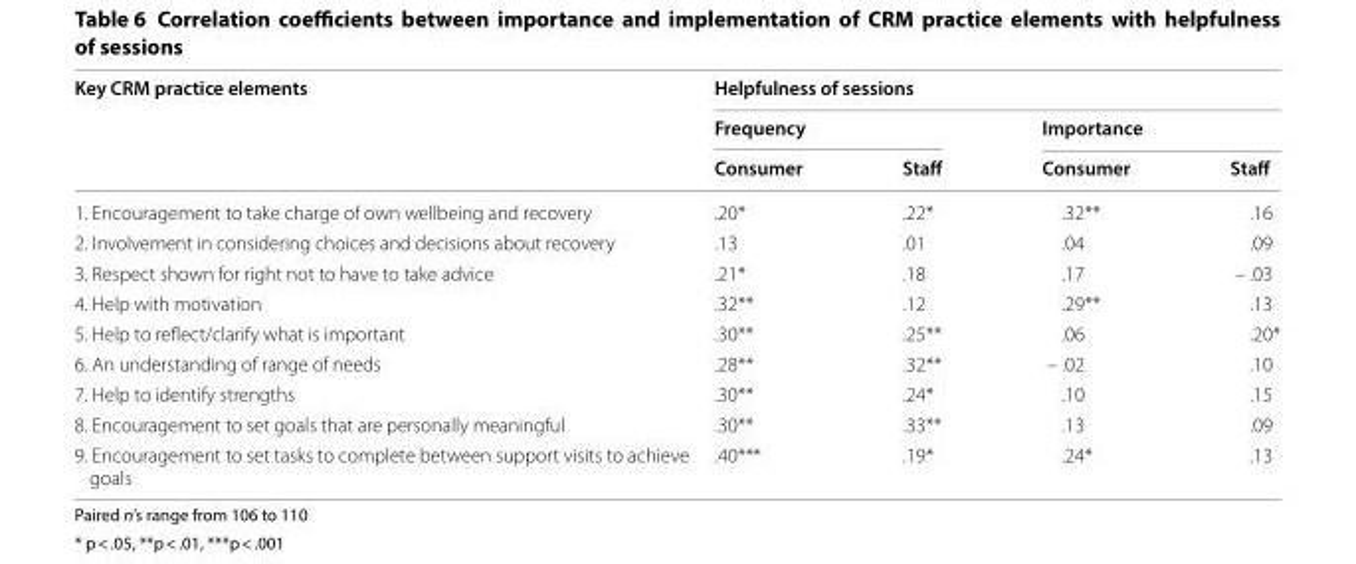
<table><thead><tr><td rowspan="3">Key CRM practice elements</td><td colspan="4">Helpfulness of sessions</td></tr><tr><td colspan="2">Frequency</td><td colspan="2">Importance</td></tr><tr><td>Consumer</td><td>Staff</td><td>Consumer</td><td>Staff</td></tr></thead><tbody><tr><td>1. Encouragement to take charge of own wellbeing and recovery</td><td>.20*</td><td>.22*</td><td>.32**</td><td>.16</td></tr><tr><td>2. Involvement in considering choices and decisions about recovery</td><td>.13</td><td>.01</td><td>.04</td><td>.09</td></tr><tr><td>3. Respect shown for right not to have to take advice</td><td>.21*</td><td>.18</td><td>.17</td><td>– .03</td></tr><tr><td>4. Help with motivation</td><td>.32**</td><td>.12</td><td>.29**</td><td>.13</td></tr><tr><td>5. Help to reflect/clarify what is important</td><td>.30**</td><td>.25**</td><td>.06</td><td>.20*</td></tr><tr><td>6. An understanding of range of needs</td><td>.28**</td><td>.32**</td><td>– .02</td><td>.10</td></tr><tr><td>7. Help to identify strengths</td><td>.30**</td><td>.24*</td><td>.10</td><td>.15</td></tr><tr><td>8. Encouragement to set goals that are personally meaningful</td><td>.30**</td><td>.33**</td><td>.13</td><td>.09</td></tr><tr><td>9. Encouragement to set tasks to complete between support visits to achieve goals</td><td>.40***</td><td>.19*</td><td>.24*</td><td>.13</td></tr></tbody></table>